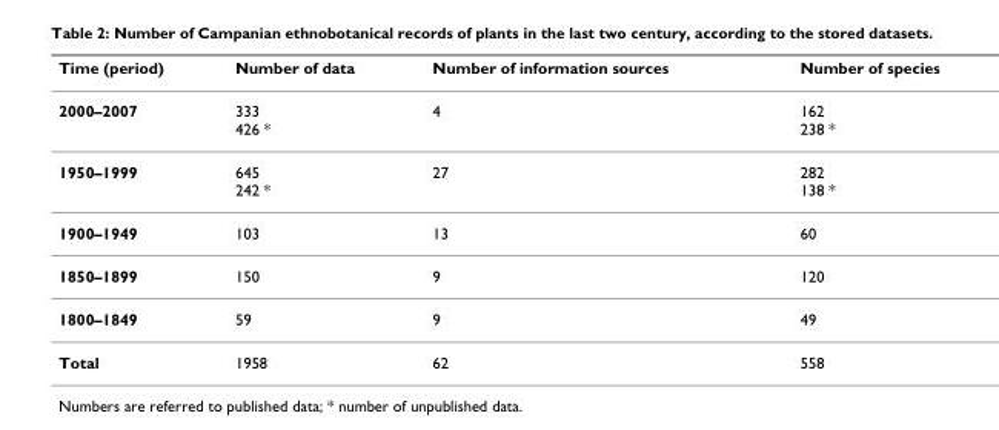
<table><thead><tr><td>Time (period)</td><td>Number of data</td><td>Number of information sources</td><td>Number of species</td></tr></thead><tbody><tr><td>2000–2007</td><td>333 426 *</td><td>4</td><td>162 238 *</td></tr><tr><td>1950–1999</td><td>645 242 *</td><td>27</td><td>282 138 *</td></tr><tr><td>1900–1949</td><td>103</td><td>13</td><td>60</td></tr><tr><td>1850–1899</td><td>150</td><td>9</td><td>120</td></tr><tr><td>1800–1849</td><td>59</td><td>9</td><td>49</td></tr><tr><td>Total</td><td>1958</td><td>62</td><td>558</td></tr></tbody></table>